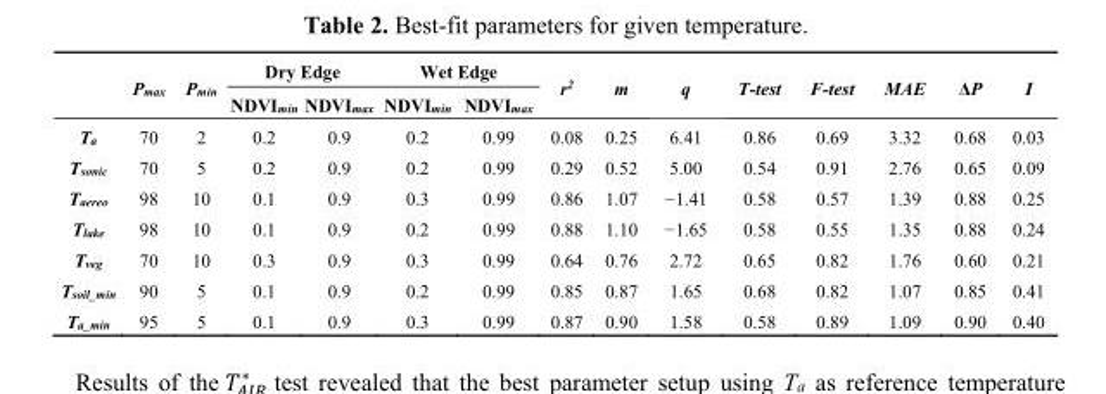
<table><thead><tr><td rowspan="2"></td><td rowspan="2">P<sub>max</sub></td><td rowspan="2">P<sub>min</sub></td><td colspan="2">Dry Edge</td><td colspan="2">Wet Edge</td><td rowspan="2">r<sup>2</sup></td><td rowspan="2">m</td><td rowspan="2">q</td><td rowspan="2">T-test</td><td rowspan="2">F-test</td><td rowspan="2">MAE</td><td rowspan="2">ΔP</td><td rowspan="2">I</td></tr><tr><td>NDVI<sub>min</sub></td><td>NDVI<sub>max</sub></td><td>NDVI<sub>min</sub></td><td>NDVI<sub>max</sub></td></tr></thead><tbody><tr><td>T<sub>a</sub></td><td>70</td><td>2</td><td>0.2</td><td>0.9</td><td>0.2</td><td>0.99</td><td>0.08</td><td>0.25</td><td>6.41</td><td>0.86</td><td>0.69</td><td>3.32</td><td>0.68</td><td>0.03</td></tr><tr><td>T<sub>sonic</sub></td><td>70</td><td>5</td><td>0.2</td><td>0.9</td><td>0.2</td><td>0.99</td><td>0.29</td><td>0.52</td><td>5.00</td><td>0.54</td><td>0.91</td><td>2.76</td><td>0.65</td><td>0.09</td></tr><tr><td>T<sub>aereo</sub></td><td>98</td><td>10</td><td>0.1</td><td>0.9</td><td>0.3</td><td>0.99</td><td>0.86</td><td>1.07</td><td>−1.41</td><td>0.58</td><td>0.57</td><td>1.39</td><td>0.88</td><td>0.25</td></tr><tr><td>T<sub>lake</sub></td><td>98</td><td>10</td><td>0.1</td><td>0.9</td><td>0.2</td><td>0.99</td><td>0.88</td><td>1.10</td><td>−1.65</td><td>0.58</td><td>0.55</td><td>1.35</td><td>0.88</td><td>0.24</td></tr><tr><td>T<sub>veg</sub></td><td>70</td><td>10</td><td>0.3</td><td>0.9</td><td>0.3</td><td>0.99</td><td>0.64</td><td>0.76</td><td>2.72</td><td>0.65</td><td>0.82</td><td>1.76</td><td>0.60</td><td>0.21</td></tr><tr><td>T<sub>soil_min</sub></td><td>90</td><td>5</td><td>0.1</td><td>0.9</td><td>0.2</td><td>0.99</td><td>0.85</td><td>0.87</td><td>1.65</td><td>0.68</td><td>0.82</td><td>1.07</td><td>0.85</td><td>0.41</td></tr><tr><td>T<sub>a_min</sub></td><td>95</td><td>5</td><td>0.1</td><td>0.9</td><td>0.3</td><td>0.99</td><td>0.87</td><td>0.90</td><td>1.58</td><td>0.58</td><td>0.89</td><td>1.09</td><td>0.90</td><td>0.40</td></tr></tbody></table>